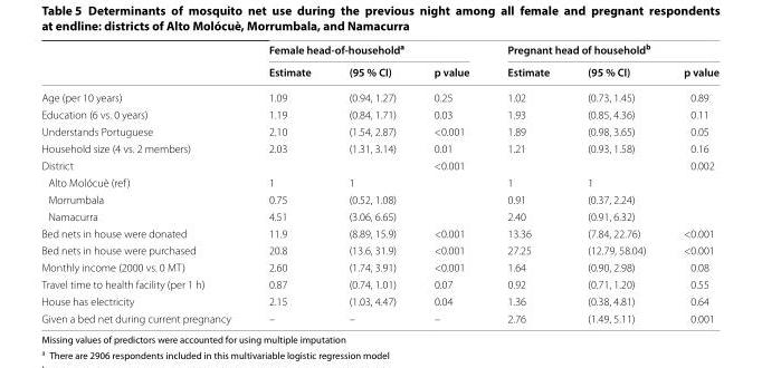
<table><thead><tr><td rowspan="2"></td><td colspan="3">Female head-of-household<sup>a</sup></td><td colspan="3">Pregnant head of household<sup>b</sup></td></tr><tr><td>Estimate</td><td>(95 % CI)</td><td>p value</td><td>Estimate</td><td>(95 % CI)</td><td>p value</td></tr></thead><tbody><tr><td>Age (per 10 years)</td><td>1.09</td><td>(0.94, 1.27)</td><td>0.25</td><td>1.02</td><td>(0.73, 1.45)</td><td>0.89</td></tr><tr><td>Education (6 vs. 0 years)</td><td>1.19</td><td>(0.84, 1.71)</td><td>0.03</td><td>1.93</td><td>(0.85, 4.36)</td><td>0.11</td></tr><tr><td>Understands Portuguese</td><td>2.10</td><td>(1.54, 2.87)</td><td>&lt;0.001</td><td>1.89</td><td>(0.98, 3.65)</td><td>0.05</td></tr><tr><td>Household size (4 vs. 2 members)</td><td>2.03</td><td>(1.31, 3.14)</td><td>0.01</td><td>1.21</td><td>(0.93, 1.58)</td><td>0.16</td></tr><tr><td>District</td><td></td><td></td><td>&lt;0.001</td><td></td><td></td><td>0.002</td></tr><tr><td>Alto Molócuè (ref)</td><td>1</td><td>1</td><td></td><td>1</td><td>1</td><td></td></tr><tr><td>Morrumbala</td><td>0.75</td><td>(0.52, 1.08)</td><td></td><td>0.91</td><td>(0.37, 2.24)</td><td></td></tr><tr><td>Namacurra</td><td>4.51</td><td>(3.06, 6.65)</td><td></td><td>2.40</td><td>(0.91, 6.32)</td><td></td></tr><tr><td>Bed nets in house were donated</td><td>11.9</td><td>(8.89, 15.9)</td><td>&lt;0.001</td><td>13.36</td><td>(7.84, 22.76)</td><td>&lt;0.001</td></tr><tr><td>Bed nets in house were purchased</td><td>20.8</td><td>(13.6, 31.9)</td><td>&lt;0.001</td><td>27.25</td><td>(12.79, 58.04)</td><td>&lt;0.001</td></tr><tr><td>Monthly income (2000 vs. 0 MT)</td><td>2.60</td><td>(1.74, 3.91)</td><td>&lt;0.001</td><td>1.64</td><td>(0.90, 2.98)</td><td>0.08</td></tr><tr><td>Travel time to health facility (per 1 h)</td><td>0.87</td><td>(0.74, 1.01)</td><td>0.07</td><td>0.92</td><td>(0.71, 1.20)</td><td>0.55</td></tr><tr><td>House has electricity</td><td>2.15</td><td>(1.03, 4.47)</td><td>0.04</td><td>1.36</td><td>(0.38, 4.81)</td><td>0.64</td></tr><tr><td>Given a bed net during current pregnancy</td><td>–</td><td>–</td><td>–</td><td>2.76</td><td>(1.49, 5.11)</td><td>0.001</td></tr></tbody></table>